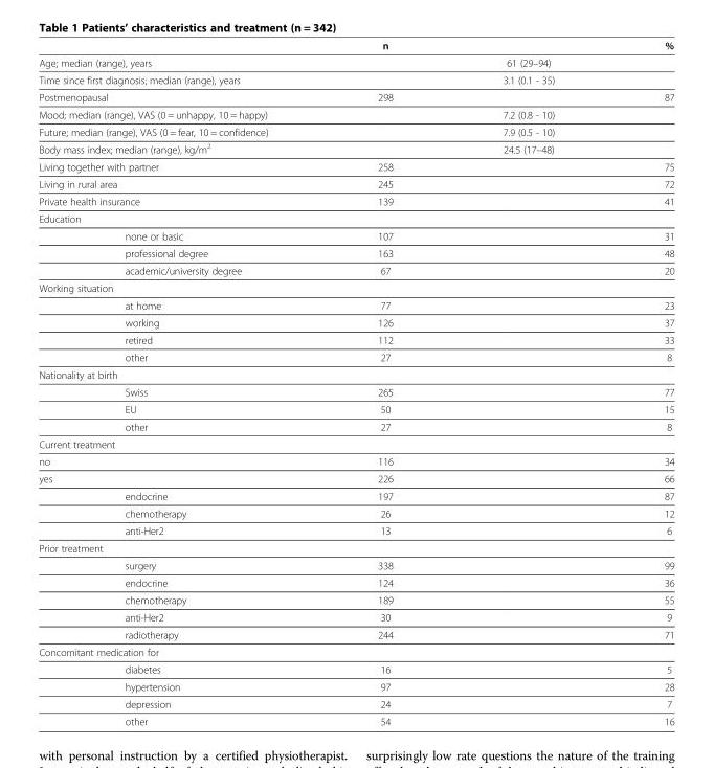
<table><thead><tr><td></td><td>n</td><td></td><td>%</td></tr></thead><tbody><tr><td>Age; median (range), years</td><td></td><td>61 (29–94)</td><td></td></tr><tr><td>Time since first diagnosis; median (range), years</td><td></td><td>3.1 (0.1 - 35)</td><td></td></tr><tr><td>Postmenopausal</td><td>298</td><td></td><td>87</td></tr><tr><td>Mood; median (range), VAS (0 = unhappy, 10 = happy)</td><td></td><td>7.2 (0.8 - 10)</td><td></td></tr><tr><td>Future; median (range), VAS (0 = fear, 10 = confidence)</td><td></td><td>7.9 (0.5 - 10)</td><td></td></tr><tr><td>Body mass index; median (range), kg/m<sup>2</sup></td><td></td><td>24.5 (17–48)</td><td></td></tr><tr><td>Living together with partner</td><td>258</td><td></td><td>75</td></tr><tr><td>Living in rural area</td><td>245</td><td></td><td>72</td></tr><tr><td>Private health insurance</td><td>139</td><td></td><td>41</td></tr><tr><td colspan="4">Education</td></tr><tr><td>none or basic</td><td>107</td><td></td><td>31</td></tr><tr><td>professional degree</td><td>163</td><td></td><td>48</td></tr><tr><td>academic/university degree</td><td>67</td><td></td><td>20</td></tr><tr><td colspan="4">Working situation</td></tr><tr><td>at home</td><td>77</td><td></td><td>23</td></tr><tr><td>working</td><td>126</td><td></td><td>37</td></tr><tr><td>retired</td><td>112</td><td></td><td>33</td></tr><tr><td>other</td><td>27</td><td></td><td>8</td></tr><tr><td colspan="4">Nationality at birth</td></tr><tr><td>Swiss</td><td>265</td><td></td><td>77</td></tr><tr><td>EU</td><td>50</td><td></td><td>15</td></tr><tr><td>other</td><td>27</td><td></td><td>8</td></tr><tr><td colspan="4">Current treatment</td></tr><tr><td>no</td><td>116</td><td></td><td>34</td></tr><tr><td>yes</td><td>226</td><td></td><td>66</td></tr><tr><td>endocrine</td><td>197</td><td></td><td>87</td></tr><tr><td>chemotherapy</td><td>26</td><td></td><td>12</td></tr><tr><td>anti-Her2</td><td>13</td><td></td><td>6</td></tr><tr><td colspan="4">Prior treatment</td></tr><tr><td>surgery</td><td>338</td><td></td><td>99</td></tr><tr><td>endocrine</td><td>124</td><td></td><td>36</td></tr><tr><td>chemotherapy</td><td>189</td><td></td><td>55</td></tr><tr><td>anti-Her2</td><td>30</td><td></td><td>9</td></tr><tr><td>radiotherapy</td><td>244</td><td></td><td>71</td></tr><tr><td colspan="4">Concomitant medication for</td></tr><tr><td>diabetes</td><td>16</td><td></td><td>5</td></tr><tr><td>hypertension</td><td>97</td><td></td><td>28</td></tr><tr><td>depression</td><td>24</td><td></td><td>7</td></tr><tr><td>other</td><td>54</td><td></td><td>16</td></tr></tbody></table>